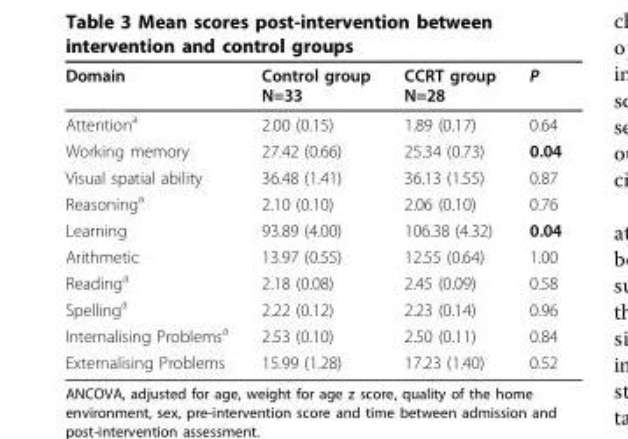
<table><thead><tr><td>Domain</td><td>Control group N=33</td><td>CCRT group N=28</td><td>P</td></tr></thead><tbody><tr><td>Attention<sup>a</sup></td><td>2.00 (0.15)</td><td>1.89 (0.17)</td><td>0.64</td></tr><tr><td>Working memory</td><td>27.42 (0.66)</td><td>25.34 (0.73)</td><td>0.04</td></tr><tr><td>Visual spatial ability</td><td>36.48 (1.41)</td><td>36.13 (1.55)</td><td>0.87</td></tr><tr><td>Reasoning<sup>a</sup></td><td>2.10 (0.10)</td><td>2.06 (0.10)</td><td>0.76</td></tr><tr><td>Learning</td><td>93.89 (4.00)</td><td>106.38 (4.32)</td><td>0.04</td></tr><tr><td>Arithmetic</td><td>13.97 (0.55)</td><td>12.55 (0.64)</td><td>1.00</td></tr><tr><td>Reading<sup>a</sup></td><td>2.18 (0.08)</td><td>2.45 (0.09)</td><td>0.58</td></tr><tr><td>Spelling<sup>a</sup></td><td>2.22 (0.12)</td><td>2.23 (0.14)</td><td>0.96</td></tr><tr><td>Internalising Problems<sup>a</sup></td><td>2.53 (0.10)</td><td>2.50 (0.11)</td><td>0.84</td></tr><tr><td>Externalising Problems</td><td>15.99 (1.28)</td><td>17.23 (1.40)</td><td>0.52</td></tr></tbody></table>